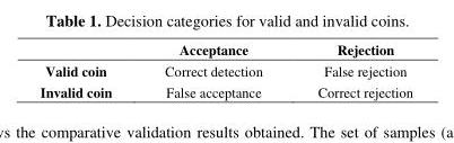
<table><thead><tr><td></td><td>Acceptance</td><td>Rejection</td></tr></thead><tbody><tr><td>Valid coin</td><td>Correct detection</td><td>False rejection</td></tr><tr><td>Invalid coin</td><td>False acceptance</td><td>Correct rejection</td></tr></tbody></table>